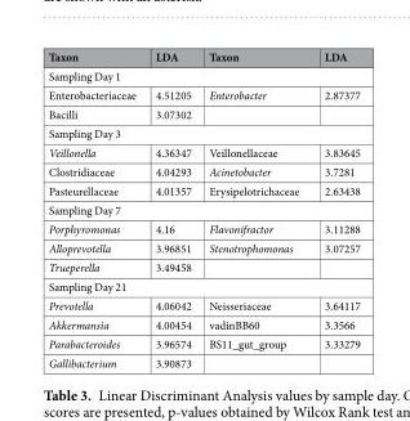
<table><thead><tr><td>Taxon</td><td>LDA</td><td>Taxon</td><td>LDA</td></tr></thead><tbody><tr><td colspan="4">Sampling Day 1</td></tr><tr><td>Enterobacteriaceae</td><td>4.51205</td><td>Enterobacter</td><td>2.87377</td></tr><tr><td>Bacilli</td><td>3.07302</td><td></td><td></td></tr><tr><td colspan="4">Sampling Day 3</td></tr><tr><td>Veillonella</td><td>4.36347</td><td>Veillonellaceae</td><td>3.83645</td></tr><tr><td>Clostridiaceae</td><td>4.04293</td><td>Acinetobacter</td><td>3.7281</td></tr><tr><td>Pasteurellaceae</td><td>4.01357</td><td>Erysipelotrichaceae</td><td>2.63438</td></tr><tr><td colspan="4">Sampling Day 7</td></tr><tr><td>Porphyromonas</td><td>4.16</td><td>Flavonifractor</td><td>3.11288</td></tr><tr><td>Alloprevotella</td><td>3.96851</td><td>Stenotrophomonas</td><td>3.07257</td></tr><tr><td>Trueperella</td><td>3.49458</td><td></td><td></td></tr><tr><td colspan="4">Sampling Day 21</td></tr><tr><td>Prevotella</td><td>4.06042</td><td>Neisseriaceae</td><td>3.64117</td></tr><tr><td>Akkermansia</td><td>4.00454</td><td>vadinBB60</td><td>3.3566</td></tr><tr><td>Parabacteroides</td><td>3.96574</td><td>BS11_gut_group</td><td>3.33279</td></tr><tr><td>Gallibacterium</td><td>3.90873</td><td></td><td></td></tr></tbody></table>